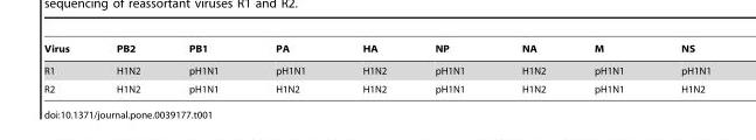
<table><thead><tr><td>Virus</td><td>PB2</td><td>PB1</td><td>PA</td><td>HA</td><td>NP</td><td>NA</td><td>M</td><td>NS</td></tr></thead><tbody><tr><td>R1</td><td>H1N2</td><td>pH1N1</td><td>pH1N1</td><td>H1N2</td><td>pH1N1</td><td>H1N2</td><td>pH1N1</td><td>pH1N1</td></tr><tr><td>R2</td><td>H1N2</td><td>pH1N1</td><td>H1N2</td><td>H1N2</td><td>pH1N1</td><td>H1N2</td><td>pH1N1</td><td>H1N2</td></tr></tbody></table>